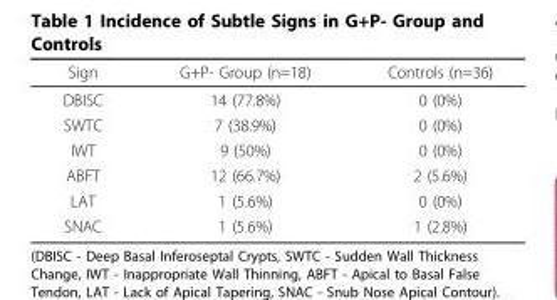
<table><thead><tr><td>Sign</td><td>G+P- Group (n=18)</td><td>Controls (n=36)</td></tr></thead><tbody><tr><td>DBISC</td><td>14 (77.8%)</td><td>0 (0%)</td></tr><tr><td>SWTC</td><td>7 (38.9%)</td><td>0 (0%)</td></tr><tr><td>IWT</td><td>9 (50%)</td><td>0 (0%)</td></tr><tr><td>ABFT</td><td>12 (66.7%)</td><td>2 (5.6%)</td></tr><tr><td>LAT</td><td>1 (5.6%)</td><td>0 (0%)</td></tr><tr><td>SNAC</td><td>1 (5.6%)</td><td>1 (2.8%)</td></tr></tbody></table>